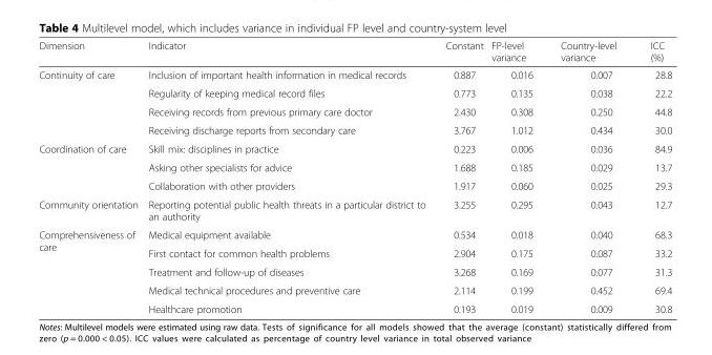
<table><thead><tr><td>Dimension</td><td>Indicator</td><td>Constant</td><td>FP-level variance</td><td>Country-level variance</td><td>ICC (%)</td></tr></thead><tbody><tr><td rowspan="4">Continuity of care</td><td>Inclusion of important health information in medical records</td><td>0.887</td><td>0.016</td><td>0.007</td><td>28.8</td></tr><tr><td>Regularity of keeping medical record files</td><td>0.773</td><td>0.135</td><td>0.038</td><td>22.2</td></tr><tr><td>Receiving records from previous primary care doctor</td><td>2.430</td><td>0.308</td><td>0.250</td><td>44.8</td></tr><tr><td>Receiving discharge reports from secondary care</td><td>3.767</td><td>1.012</td><td>0.434</td><td>30.0</td></tr><tr><td rowspan="3">Coordination of care</td><td>Skill mix: disciplines in practice</td><td>0.223</td><td>0.006</td><td>0.036</td><td>84.9</td></tr><tr><td>Asking other specialists for advice</td><td>1.688</td><td>0.185</td><td>0.029</td><td>13.7</td></tr><tr><td>Collaboration with other providers</td><td>1.917</td><td>0.060</td><td>0.025</td><td>29.3</td></tr><tr><td>Community orientation</td><td>Reporting potential public health threats in a particular district to an authority</td><td>3.255</td><td>0.295</td><td>0.043</td><td>12.7</td></tr><tr><td rowspan="5">Comprehensiveness of care</td><td>Medical equipment available</td><td>0.534</td><td>0.018</td><td>0.040</td><td>68.3</td></tr><tr><td>First contact for common health problems</td><td>2.904</td><td>0.175</td><td>0.087</td><td>33.2</td></tr><tr><td>Treatment and follow-up of diseases</td><td>3.268</td><td>0.169</td><td>0.077</td><td>31.3</td></tr><tr><td>Medical technical procedures and preventive care</td><td>2.114</td><td>0.199</td><td>0.452</td><td>69.4</td></tr><tr><td>Healthcare promotion</td><td>0.193</td><td>0.019</td><td>0.009</td><td>30.8</td></tr></tbody></table>